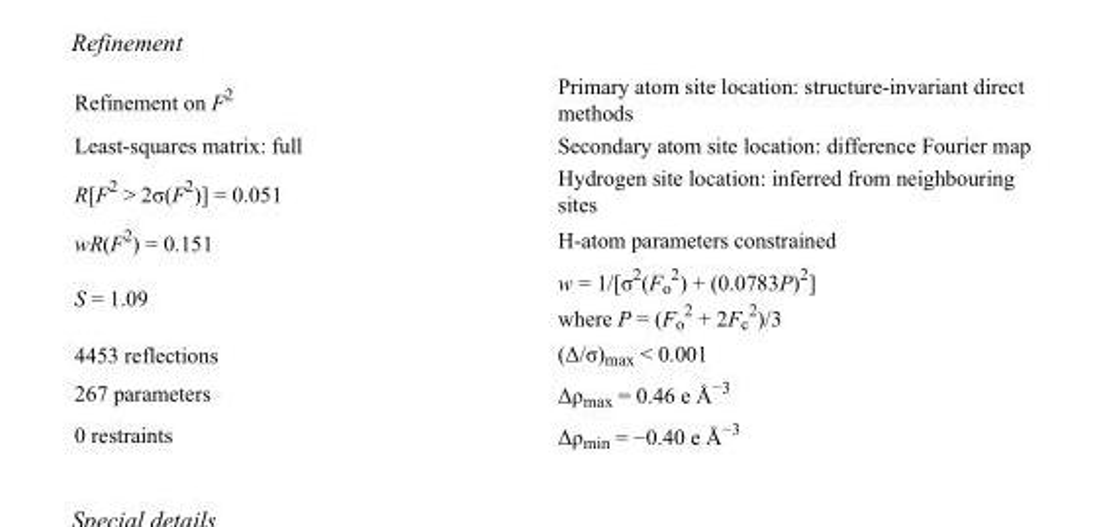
<table><tbody><tr><td>Refinement on F<sup>2</sup></td><td>Primary atom site location: structure-invariant direct methods</td></tr><tr><td>Least-squares matrix: full</td><td>Secondary atom site location: difference Fourier map</td></tr><tr><td>R[F<sup>2</sup> &gt; 2σ(F<sup>2</sup>)] = 0.051</td><td>Hydrogen site location: inferred from neighbouring sites</td></tr><tr><td>wR(F<sup>2</sup>) = 0.151</td><td>H-atom parameters constrained</td></tr><tr><td>S = 1.09</td><td>w = 1/[σ<sup>2</sup>(F<sub>o</sub> <sup>2</sup>) + (0.0783P)<sup>2</sup>] where P = (F<sub>o</sub> <sup>2</sup> + 2F<sub>c</sub> <sup>2</sup>)/3</td></tr><tr><td>4453 reflections</td><td>(Δ/σ)<sub>max</sub> &lt; 0.001</td></tr><tr><td>267 parameters</td><td>Δρ<sub>max</sub> = 0.46 e Å<sup>−3</sup></td></tr><tr><td>0 restraints</td><td>Δρ<sub>min</sub> = −0.40 e Å<sup>−3</sup></td></tr></tbody></table>